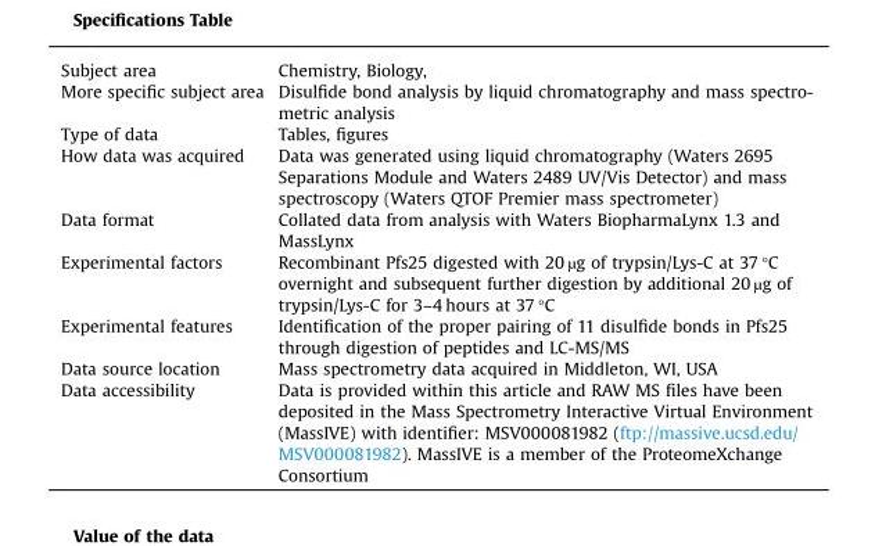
<table><tbody><tr><td>Subject area</td><td>Chemistry, Biology,</td></tr><tr><td>More specific subject area</td><td>Disulfide bond analysis by liquid chromatography and mass spectro- metric analysis</td></tr><tr><td>Type of data</td><td>Tables, figures</td></tr><tr><td>How data was acquired</td><td>Data was generated using liquid chromatography (Waters 2695 Separations Module and Waters 2489 UV/Vis Detector) and mass spectroscopy (Waters QTOF Premier mass spectrometer)</td></tr><tr><td>Data format</td><td>Collated data from analysis with Waters BiopharmaLynx 1.3 and MassLynx</td></tr><tr><td>Experimental factors</td><td>Recombinant Pfs25 digested with 20 µg of trypsin/Lys-C at 37 °C overnight and subsequent further digestion by additional 20 µg of trypsin/Lys-C for 3–4 hours at 37 °C</td></tr><tr><td>Experimental features</td><td>Identification of the proper pairing of 11 disulfide bonds in Pfs25 through digestion of peptides and LC-MS/MS</td></tr><tr><td>Data source location</td><td>Mass spectrometry data acquired in Middleton, WI, USA</td></tr><tr><td>Data accessibility</td><td>Data is provided within this article and RAW MS files have been deposited in the Mass Spectrometry Interactive Virtual Environment (MassIVE) with identifier: MSV000081982 (ftp://massive.ucsd.edu/ MSV000081982). MassIVE is a member of the ProteomeXchange Consortium</td></tr></tbody></table>